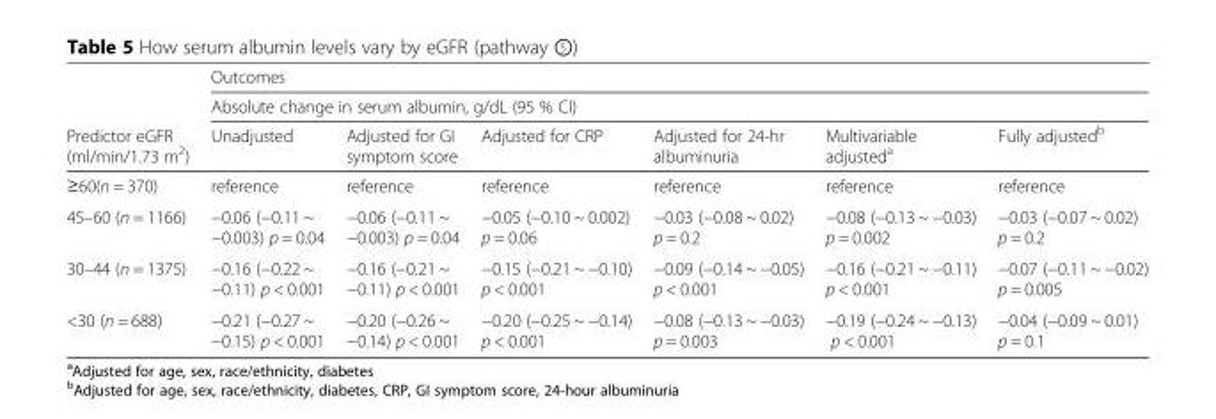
<table><thead><tr><td rowspan="3">Predictor eGFR (ml/min/1.73 m<sup>2</sup>)</td><td rowspan="2" colspan="6">Outcomes Absolute change in serum albumin, g/dL (95 % CI)</td></tr><tr></tr><tr><td>Unadjusted</td><td>Adjusted for GI symptom score</td><td>Adjusted for CRP</td><td>Adjusted for 24-hr albuminuria</td><td>Multivariable adjusted<sup>a</sup></td><td>Fully adjusted<sup>b</sup></td></tr></thead><tbody><tr><td>≥60(n = 370)</td><td>reference</td><td>reference</td><td>reference</td><td>reference</td><td>reference</td><td>reference</td></tr><tr><td>45–60 (n = 1166)</td><td>−0.06 (−0.11 ~ −0.003) p = 0.04</td><td>−0.06 (−0.11 ~ −0.003) p = 0.04</td><td>−0.05 (−0.10 ~ 0.002) p = 0.06</td><td>−0.03 (−0.08 ~ 0.02) p = 0.2</td><td>−0.08 (−0.13 ~ −0.03) p = 0.002</td><td>−0.03 (−0.07 ~ 0.02) p = 0.2</td></tr><tr><td>30–44 (n = 1375)</td><td>−0.16 (−0.22 ~ −0.11) p &lt; 0.001</td><td>−0.16 (−0.21 ~ −0.11) p &lt; 0.001</td><td>−0.15 (−0.21 ~ −0.10) p &lt; 0.001</td><td>−0.09 (−0.14 ~ −0.05) p &lt; 0.001</td><td>−0.16 (−0.21 ~ −0.11) p &lt; 0.001</td><td>−0.07 (−0.11 ~ −0.02) p = 0.005</td></tr><tr><td>&lt;30 (n = 688)</td><td>−0.21 (−0.27 ~ −0.15) p &lt; 0.001</td><td>−0.20 (−0.26 ~ −0.14) p &lt; 0.001</td><td>−0.20 (−0.25 ~ −0.14) p &lt; 0.001</td><td>−0.08 (−0.13 ~ −0.03) p = 0.003</td><td>−0.19 (−0.24 ~ −0.13) p &lt; 0.001</td><td>−0.04 (−0.09 ~ 0.01) p = 0.1</td></tr></tbody></table>